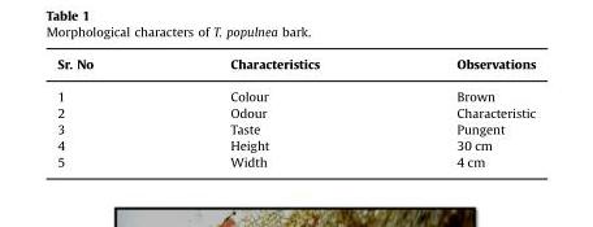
<table><thead><tr><td>Sr. No</td><td>Characteristics</td><td>Observations</td></tr></thead><tbody><tr><td>1</td><td>Colour</td><td>Brown</td></tr><tr><td>2</td><td>Odour</td><td>Characteristic</td></tr><tr><td>3</td><td>Taste</td><td>Pungent</td></tr><tr><td>4</td><td>Height</td><td>30 cm</td></tr><tr><td>5</td><td>Width</td><td>4 cm</td></tr></tbody></table>